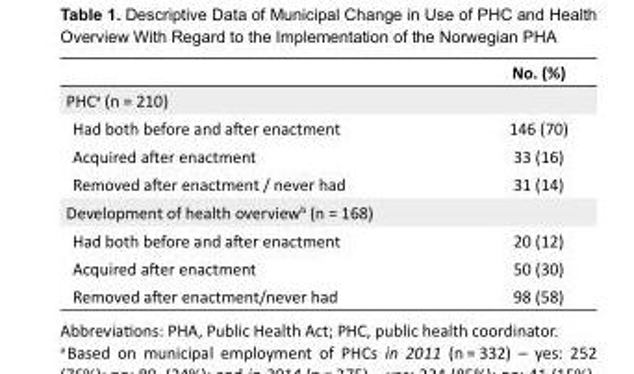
<table><thead><tr><td></td><td>No. (%)</td></tr></thead><tbody><tr><td colspan="2">PHC<sup>a</sup> (n = 210)</td></tr><tr><td>Had both before and after enactment</td><td>146 (70)</td></tr><tr><td>Acquired after enactment</td><td>33 (16)</td></tr><tr><td>Removed after enactment / never had</td><td>31 (14)</td></tr><tr><td colspan="2">Development of health overview<sup>b</sup> (n = 168)</td></tr><tr><td>Had both before and after enactment</td><td>20 (12)</td></tr><tr><td>Acquired after enactment</td><td>50 (30)</td></tr><tr><td>Removed after enactment/never had</td><td>98 (58)</td></tr></tbody></table>